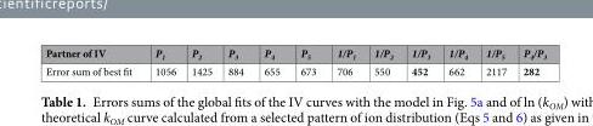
<table><thead><tr><td>Partner of IV</td><td>P<sub>1</sub></td><td>P<sub>2</sub></td><td>P<sub>3</sub></td><td>P<sub>4</sub></td><td>P<sub>5</sub></td><td>1/P<sub>1</sub></td><td>1/P<sub>2</sub></td><td>1/P<sub>3</sub></td><td>1/P<sub>4</sub></td><td>1/P<sub>5</sub></td><td>P<sub>4</sub>/P<sub>3</sub></td></tr></thead><tbody><tr><td>Error sum of best fit</td><td>1056</td><td>1425</td><td>884</td><td>655</td><td>673</td><td>706</td><td>550</td><td>452</td><td>662</td><td>2117</td><td>282</td></tr></tbody></table>